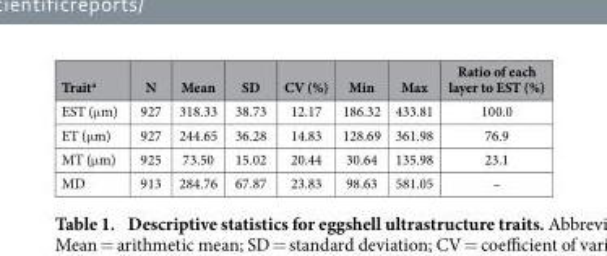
<table><thead><tr><td>Trait<sup>a</sup></td><td>N</td><td>Mean</td><td>SD</td><td>CV (%)</td><td>Min</td><td>Max</td><td>Ratio of each layer to EST (%)</td></tr></thead><tbody><tr><td>EST (μ m)</td><td>927</td><td>318.33</td><td>38.73</td><td>12.17</td><td>186.32</td><td>433.81</td><td>100.0</td></tr><tr><td>ET (μ m)</td><td>927</td><td>244.65</td><td>36.28</td><td>14.83</td><td>128.69</td><td>361.98</td><td>76.9</td></tr><tr><td>MT (μ m)</td><td>925</td><td>73.50</td><td>15.02</td><td>20.44</td><td>30.64</td><td>135.98</td><td>23.1</td></tr><tr><td>MD</td><td>913</td><td>284.76</td><td>67.87</td><td>23.83</td><td>98.63</td><td>581.05</td><td>–</td></tr></tbody></table>